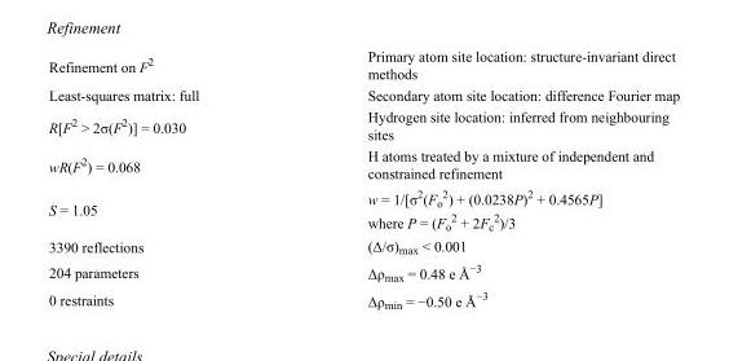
<table><tbody><tr><td>Refinement on F<sup>2</sup></td><td>Primary atom site location: structure-invariant direct methods</td></tr><tr><td>Least-squares matrix: full</td><td>Secondary atom site location: difference Fourier map</td></tr><tr><td>R[F<sup>2</sup> &gt; 2σ(F<sup>2</sup>)] = 0.030</td><td>Hydrogen site location: inferred from neighbouring sites</td></tr><tr><td>wR(F<sup>2</sup>) = 0.068</td><td>H atoms treated by a mixture of independent and constrained refinement</td></tr><tr><td>S = 1.05</td><td>w = 1/[σ<sup>2</sup>(F<sub>o</sub> <sup>2</sup>) + (0.0238P)<sup>2</sup> + 0.4565P] where P = (F<sub>o</sub> <sup>2</sup> + 2F<sub>c</sub> <sup>2</sup>)/3</td></tr><tr><td>3390 reflections</td><td>(Δ/σ)<sub>max</sub> &lt; 0.001</td></tr><tr><td>204 parameters</td><td>Δρ<sub>max</sub> = 0.48 e Å<sup>−3</sup></td></tr><tr><td>0 restraints</td><td>Δρ<sub>min</sub> = −0.50 e Å<sup>−3</sup></td></tr></tbody></table>